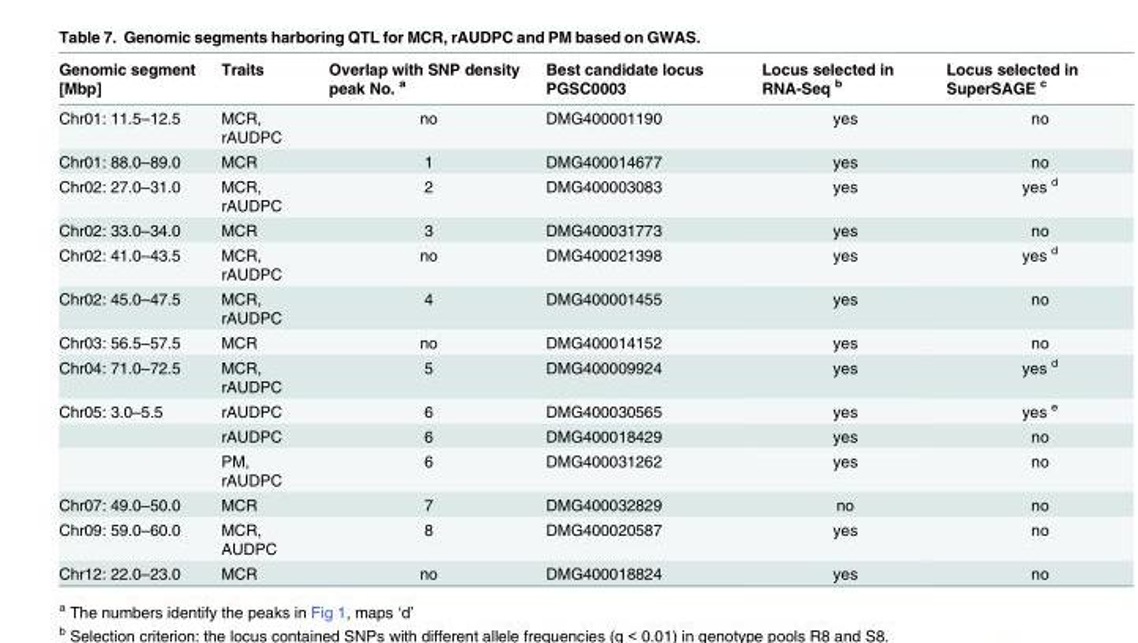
<table><thead><tr><td>Genomic segment [Mbp]</td><td>Traits</td><td>Overlap with SNP density peak No. <sup>a</sup></td><td>Best candidate locus PGSC0003</td><td>Locus selected in RNA-Seq <sup>b</sup></td><td>Locus selected in SuperSAGE <sup>c</sup></td></tr></thead><tbody><tr><td>Chr01: 11.5–12.5</td><td>MCR, rAUDPC</td><td>no</td><td>DMG400001190</td><td>yes</td><td>no</td></tr><tr><td>Chr01: 88.0–89.0</td><td>MCR</td><td>1</td><td>DMG400014677</td><td>yes</td><td>no</td></tr><tr><td>Chr02: 27.0–31.0</td><td>MCR, rAUDPC</td><td>2</td><td>DMG400003083</td><td>yes</td><td>yes <sup>d</sup></td></tr><tr><td>Chr02: 33.0–34.0</td><td>MCR</td><td>3</td><td>DMG400031773</td><td>yes</td><td>no</td></tr><tr><td>Chr02: 41.0–43.5</td><td>MCR, rAUDPC</td><td>no</td><td>DMG400021398</td><td>yes</td><td>yes <sup>d</sup></td></tr><tr><td>Chr02: 45.0–47.5</td><td>MCR, rAUDPC</td><td>4</td><td>DMG400001455</td><td>yes</td><td>no</td></tr><tr><td>Chr03: 56.5–57.5</td><td>MCR</td><td>no</td><td>DMG400014152</td><td>yes</td><td>no</td></tr><tr><td>Chr04: 71.0–72.5</td><td>MCR, rAUDPC</td><td>5</td><td>DMG400009924</td><td>yes</td><td>yes <sup>d</sup></td></tr><tr><td rowspan="3">Chr05: 3.0–5.5</td><td>rAUDPC</td><td>6</td><td>DMG400030565</td><td>yes</td><td>yes <sup>e</sup></td></tr><tr><td>rAUDPC</td><td>6</td><td>DMG400018429</td><td>yes</td><td>no</td></tr><tr><td>PM, rAUDPC</td><td>6</td><td>DMG400031262</td><td>yes</td><td>no</td></tr><tr><td>Chr07: 49.0–50.0</td><td>MCR</td><td>7</td><td>DMG400032829</td><td>no</td><td>no</td></tr><tr><td>Chr09: 59.0–60.0</td><td>MCR, AUDPC</td><td>8</td><td>DMG400020587</td><td>yes</td><td>no</td></tr><tr><td>Chr12: 22.0–23.0</td><td>MCR</td><td>no</td><td>DMG400018824</td><td>yes</td><td>no</td></tr></tbody></table>